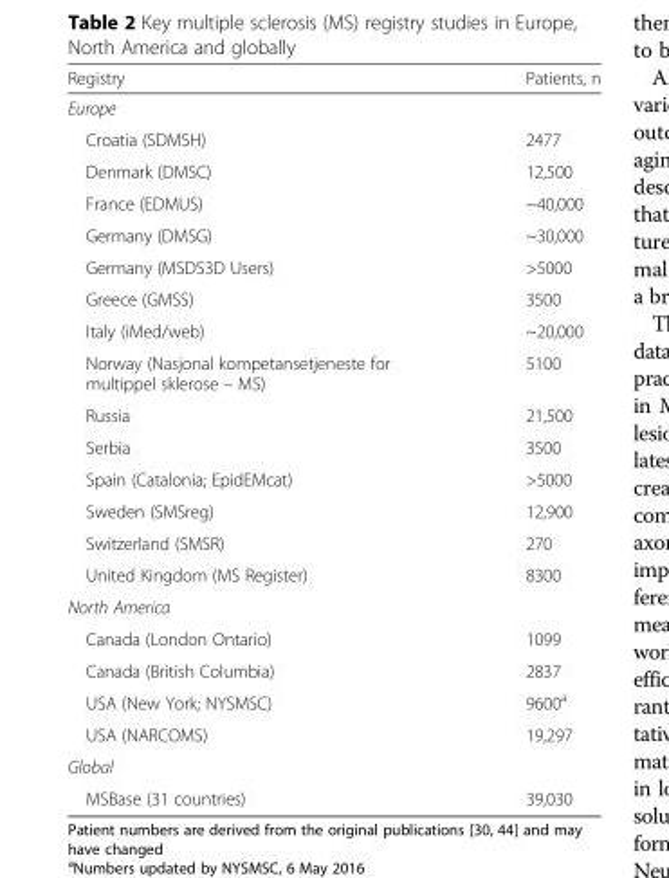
<table><thead><tr><td>Registry</td><td>Patients, n</td></tr></thead><tbody><tr><td colspan="2">Europe</td></tr><tr><td>Croatia (SDMSH)</td><td>2477</td></tr><tr><td>Denmark (DMSC)</td><td>12,500</td></tr><tr><td>France (EDMUS)</td><td>~40,000</td></tr><tr><td>Germany (DMSG)</td><td>~30,000</td></tr><tr><td>Germany (MSDS3D Users)</td><td>&gt;5000</td></tr><tr><td>Greece (GMSS)</td><td>3500</td></tr><tr><td>Italy (iMed/web)</td><td>~20,000</td></tr><tr><td>Norway (Nasjonal kompetansetjeneste for multippel sklerose – MS)</td><td>5100</td></tr><tr><td>Russia</td><td>21,500</td></tr><tr><td>Serbia</td><td>3500</td></tr><tr><td>Spain (Catalonia; EpidEMcat)</td><td>&gt;5000</td></tr><tr><td>Sweden (SMSreg)</td><td>12,900</td></tr><tr><td>Switzerland (SMSR)</td><td>270</td></tr><tr><td>United Kingdom (MS Register)</td><td>8300</td></tr><tr><td colspan="2">North America</td></tr><tr><td>Canada (London Ontario)</td><td>1099</td></tr><tr><td>Canada (British Columbia)</td><td>2837</td></tr><tr><td>USA (New York; NYSMSC)</td><td>9600<sup>a</sup></td></tr><tr><td>USA (NARCOMS)</td><td>19,297</td></tr><tr><td colspan="2">Global</td></tr><tr><td>MSBase (31 countries)</td><td>39,030</td></tr></tbody></table>